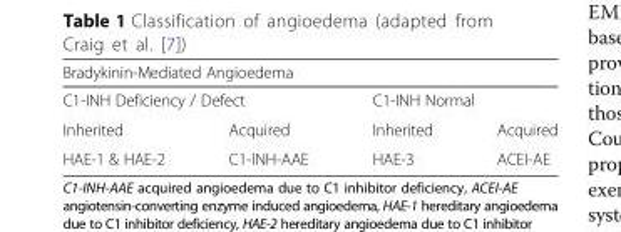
<table><thead><tr><td colspan="4">Bradykinin-Mediated Angioedema</td></tr><tr><td colspan="2">C1-INH Deficiency / Defect</td><td colspan="2">C1-INH Normal</td></tr><tr><td>Inherited</td><td>Acquired</td><td>Inherited</td><td>Acquired</td></tr></thead><tbody><tr><td>HAE-1 &amp; HAE-2</td><td>C1-INH-AAE</td><td>HAE-3</td><td>ACEI-AE</td></tr></tbody></table>